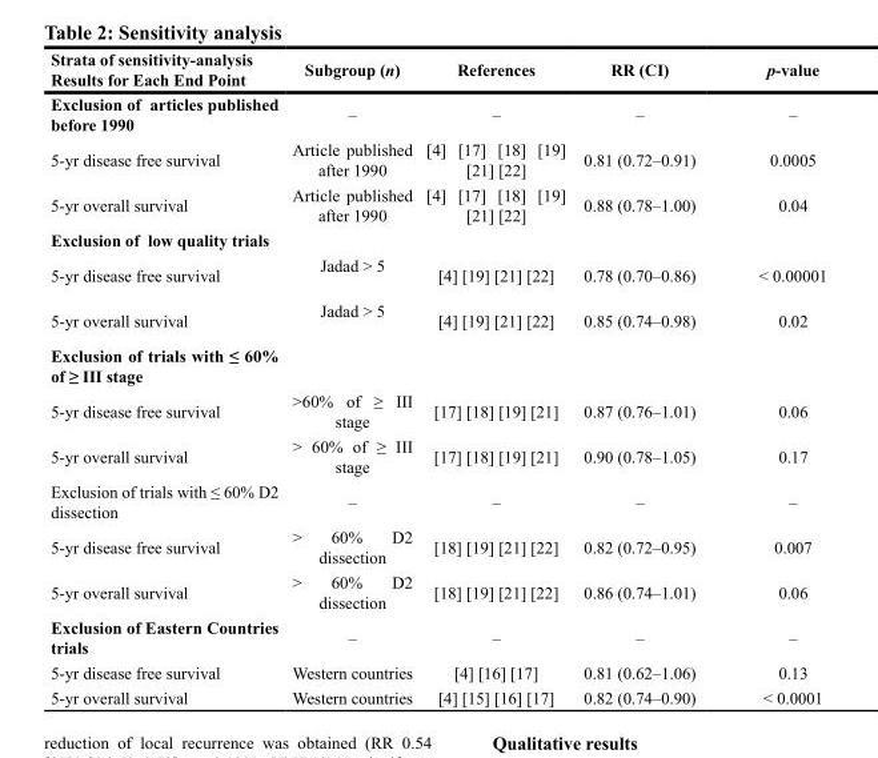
<table><thead><tr><td>Strata of sensitivity-analysis Results for Each End Point</td><td>Subgroup (n)</td><td>References</td><td>RR (CI)</td><td>p-value</td></tr></thead><tbody><tr><td>Exclusion of articles published before 1990</td><td>–</td><td>–</td><td>–</td><td>–</td></tr><tr><td>5-yr disease free survival</td><td>Article published after 1990</td><td>[4] [17] [18] [19] [21] [22]</td><td>0.81 (0.72–0.91)</td><td>0.0005</td></tr><tr><td>5-yr overall survival</td><td>Article published after 1990</td><td>[4] [17] [18] [19] [21] [22]</td><td>0.88 (0.78–1.00)</td><td>0.04</td></tr><tr><td colspan="5">Exclusion of low quality trials</td></tr><tr><td>5-yr disease free survival</td><td>Jadad &gt; 5</td><td>[4] [19] [21] [22]</td><td>0.78 (0.70–0.86)</td><td>&lt; 0.00001</td></tr><tr><td>5-yr overall survival</td><td>Jadad &gt; 5</td><td>[4] [19] [21] [22]</td><td>0.85 (0.74–0.98)</td><td>0.02</td></tr><tr><td colspan="5">Exclusion of trials with ≤ 60% of ≥ III stage</td></tr><tr><td>5-yr disease free survival</td><td>&gt;60% of ≥ III stage</td><td>[17] [18] [19] [21]</td><td>0.87 (0.76–1.01)</td><td>0.06</td></tr><tr><td>5-yr overall survival</td><td>&gt; 60% of ≥ III stage</td><td>[17] [18] [19] [21]</td><td>0.90 (0.78–1.05)</td><td>0.17</td></tr><tr><td>Exclusion of trials with ≤ 60% D2 dissection</td><td>–</td><td>–</td><td>–</td><td>–</td></tr><tr><td>5-yr disease free survival</td><td>&gt; 60% D2 dissection</td><td>[18] [19] [21] [22]</td><td>0.82 (0.72–0.95)</td><td>0.007</td></tr><tr><td>5-yr overall survival</td><td>&gt; 60% D2 dissection</td><td>[18] [19] [21] [22]</td><td>0.86 (0.74–1.01)</td><td>0.06</td></tr><tr><td>Exclusion of Eastern Countries trials</td><td>–</td><td>–</td><td>–</td><td>–</td></tr><tr><td>5-yr disease free survival</td><td>Western countries</td><td>[4] [16] [17]</td><td>0.81 (0.62–1.06)</td><td>0.13</td></tr><tr><td>5-yr overall survival</td><td>Western countries</td><td>[4] [15] [16] [17]</td><td>0.82 (0.74–0.90)</td><td>&lt; 0.0001</td></tr></tbody></table>